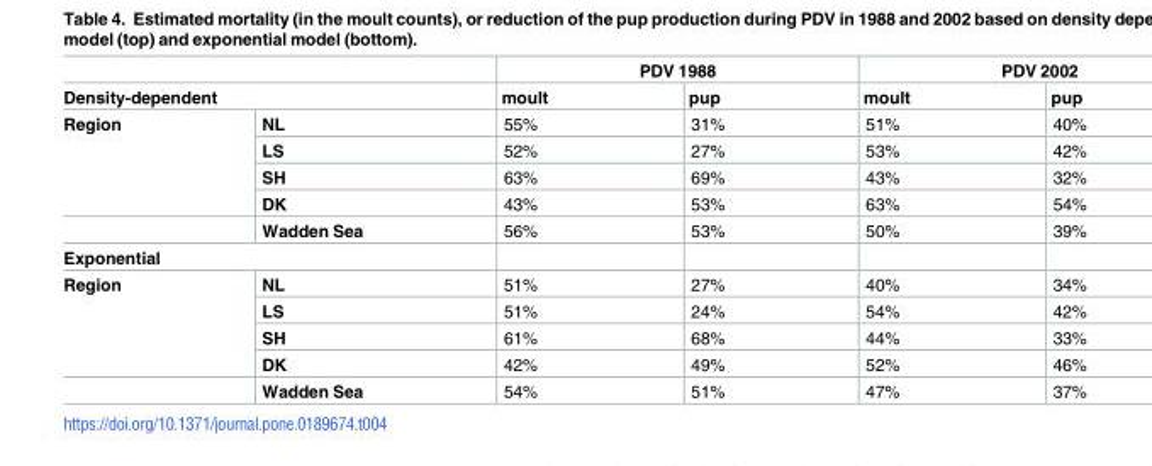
<table><thead><tr><td></td><td></td><td colspan="2">PDV 1988</td><td colspan="2">PDV 2002</td></tr><tr><td colspan="2">Density-dependent</td><td>moult</td><td>pup</td><td>moult</td><td>pup</td></tr></thead><tbody><tr><td rowspan="5">Region</td><td>NL</td><td>55%</td><td>31%</td><td>51%</td><td>40%</td></tr><tr><td>LS</td><td>52%</td><td>27%</td><td>53%</td><td>42%</td></tr><tr><td>SH</td><td>63%</td><td>69%</td><td>43%</td><td>32%</td></tr><tr><td>DK</td><td>43%</td><td>53%</td><td>63%</td><td>54%</td></tr><tr><td>Wadden Sea</td><td>56%</td><td>53%</td><td>50%</td><td>39%</td></tr><tr><td colspan="6">Exponential</td></tr><tr><td rowspan="5">Region</td><td>NL</td><td>51%</td><td>27%</td><td>40%</td><td>34%</td></tr><tr><td>LS</td><td>51%</td><td>24%</td><td>54%</td><td>42%</td></tr><tr><td>SH</td><td>61%</td><td>68%</td><td>44%</td><td>33%</td></tr><tr><td>DK</td><td>42%</td><td>49%</td><td>52%</td><td>46%</td></tr><tr><td>Wadden Sea</td><td>54%</td><td>51%</td><td>47%</td><td>37%</td></tr></tbody></table>